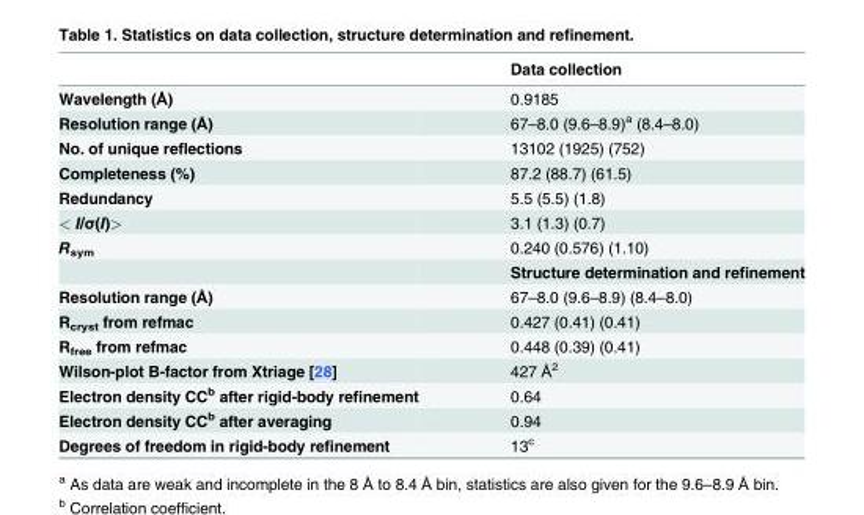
<table><thead><tr><td></td><td>Data collection</td></tr></thead><tbody><tr><td>Wavelength (Å)</td><td>0.9185</td></tr><tr><td>Resolution range (Å)</td><td>67–8.0 (9.6–8.9)<sup>a</sup> (8.4–8.0)</td></tr><tr><td>No. of unique reflections</td><td>13102 (1925) (752)</td></tr><tr><td>Completeness (%)</td><td>87.2 (88.7) (61.5)</td></tr><tr><td>Redundancy</td><td>5.5 (5.5) (1.8)</td></tr><tr><td>&lt; I/σ(I)&gt;</td><td>3.1 (1.3) (0.7)</td></tr><tr><td rowspan="2">R<sub>sym</sub></td><td>0.240 (0.576) (1.10)</td></tr><tr><td>Structure determination and refinement</td></tr><tr><td>Resolution range (Å)</td><td>67–8.0 (9.6–8.9) (8.4–8.0)</td></tr><tr><td>R<sub>cryst</sub> from refmac</td><td>0.427 (0.41) (0.41)</td></tr><tr><td>R<sub>free</sub> from refmac</td><td>0.448 (0.39) (0.41)</td></tr><tr><td>Wilson-plot B-factor from Xtriage [28]</td><td>427 Å<sup>2</sup></td></tr><tr><td>Electron density CC<sup>b</sup> after rigid-body refinement</td><td>0.64</td></tr><tr><td>Electron density CC<sup>b</sup> after averaging</td><td>0.94</td></tr><tr><td>Degrees of freedom in rigid-body refinement</td><td>13<sup>c</sup></td></tr></tbody></table>